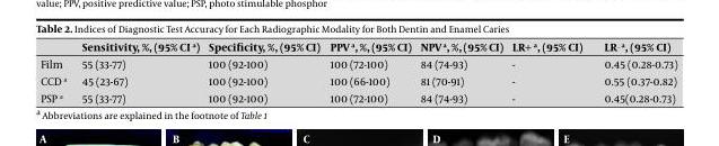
<table><thead><tr><td></td><td>Sensitivity, %, (95% CI a)</td><td>Specificity, %, (95% CI)</td><td>PPV a, %, (95% CI)</td><td>NPV a, %, (95% CI)</td><td>LR+ a, (95% CI)</td><td>LR_ a, (95% CI)</td></tr></thead><tbody><tr><td>Film</td><td>55 (33-77)</td><td>100 (92-100)</td><td>100 (72-100)</td><td>84 (74-93)</td><td>-</td><td>0.45 (0.28-0.73)</td></tr><tr><td>CCD a</td><td>45 (23-67)</td><td>100 (92-100)</td><td>100 (66-100)</td><td>81 (70-91)</td><td>-</td><td>0.55 (0.37-0.82)</td></tr><tr><td>PSP a</td><td>55 (33-77)</td><td>100 (92-100)</td><td>100 (72-100)</td><td>84 (74-93)</td><td>-</td><td>0.45(0.28-0.73)</td></tr></tbody></table>